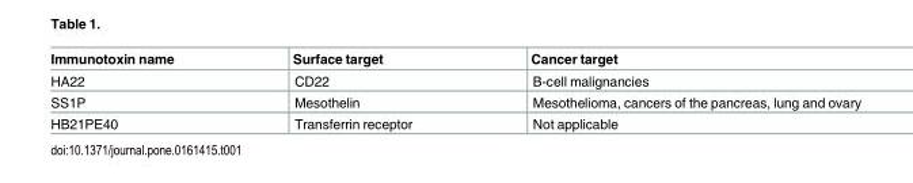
<table><thead><tr><td>Immunotoxin name</td><td>Surface target</td><td>Cancer target</td></tr></thead><tbody><tr><td>HA22</td><td>CD22</td><td>B-cell malignancies</td></tr><tr><td>SS1P</td><td>Mesothelin</td><td>Mesothelioma, cancers of the pancreas, lung and ovary</td></tr><tr><td>HB21PE40</td><td>Transferrin receptor</td><td>Not applicable</td></tr></tbody></table>